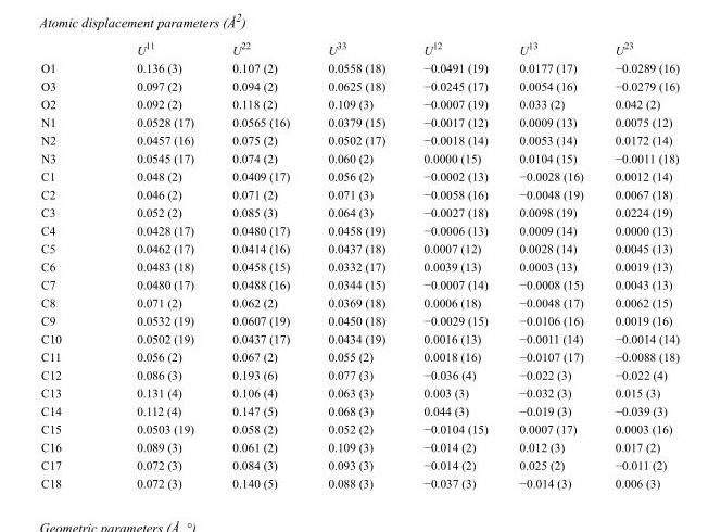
<table><thead><tr><td></td><td>U<sup>11</sup></td><td>U<sup>22</sup></td><td>U<sup>33</sup></td><td>U<sup>12</sup></td><td>U<sup>13</sup></td><td>U<sup>23</sup></td></tr></thead><tbody><tr><td>O1</td><td>0.136 (3)</td><td>0.107 (2)</td><td>0.0558 (18)</td><td>−0.0491 (19)</td><td>0.0177 (17)</td><td>−0.0289 (16)</td></tr><tr><td>O3</td><td>0.097 (2)</td><td>0.094 (2)</td><td>0.0625 (18)</td><td>−0.0245 (17)</td><td>0.0054 (16)</td><td>−0.0279 (16)</td></tr><tr><td>O2</td><td>0.092 (2)</td><td>0.118 (2)</td><td>0.109 (3)</td><td>−0.0007 (19)</td><td>0.033 (2)</td><td>0.042 (2)</td></tr><tr><td>N1</td><td>0.0528 (17)</td><td>0.0565 (16)</td><td>0.0379 (15)</td><td>−0.0017 (12)</td><td>0.0009 (13)</td><td>0.0075 (12)</td></tr><tr><td>N2</td><td>0.0457 (16)</td><td>0.075 (2)</td><td>0.0502 (17)</td><td>−0.0018 (14)</td><td>0.0053 (14)</td><td>0.0172 (14)</td></tr><tr><td>N3</td><td>0.0545 (17)</td><td>0.074 (2)</td><td>0.060 (2)</td><td>0.0000 (15)</td><td>0.0104 (15)</td><td>−0.0011 (18)</td></tr><tr><td>C1</td><td>0.048 (2)</td><td>0.0409 (17)</td><td>0.056 (2)</td><td>−0.0002 (13)</td><td>−0.0028 (16)</td><td>0.0012 (14)</td></tr><tr><td>C2</td><td>0.046 (2)</td><td>0.071 (2)</td><td>0.071 (3)</td><td>−0.0058 (16)</td><td>−0.0048 (19)</td><td>0.0067 (18)</td></tr><tr><td>C3</td><td>0.052 (2)</td><td>0.085 (3)</td><td>0.064 (3)</td><td>−0.0027 (18)</td><td>0.0098 (19)</td><td>0.0224 (19)</td></tr><tr><td>C4</td><td>0.0428 (17)</td><td>0.0480 (17)</td><td>0.0458 (19)</td><td>−0.0006 (13)</td><td>0.0009 (14)</td><td>0.0000 (13)</td></tr><tr><td>C5</td><td>0.0462 (17)</td><td>0.0414 (16)</td><td>0.0437 (18)</td><td>0.0007 (12)</td><td>0.0028 (14)</td><td>0.0045 (13)</td></tr><tr><td>C6</td><td>0.0483 (18)</td><td>0.0458 (15)</td><td>0.0332 (17)</td><td>0.0039 (13)</td><td>0.0003 (13)</td><td>0.0019 (13)</td></tr><tr><td>C7</td><td>0.0480 (17)</td><td>0.0488 (16)</td><td>0.0344 (15)</td><td>−0.0007 (14)</td><td>−0.0008 (15)</td><td>0.0043 (13)</td></tr><tr><td>C8</td><td>0.071 (2)</td><td>0.062 (2)</td><td>0.0369 (18)</td><td>0.0006 (18)</td><td>−0.0048 (17)</td><td>0.0062 (15)</td></tr><tr><td>C9</td><td>0.0532 (19)</td><td>0.0607 (19)</td><td>0.0450 (18)</td><td>−0.0029 (15)</td><td>−0.0106 (16)</td><td>0.0019 (16)</td></tr><tr><td>C10</td><td>0.0502 (19)</td><td>0.0437 (17)</td><td>0.0434 (19)</td><td>0.0016 (13)</td><td>−0.0011 (14)</td><td>−0.0014 (14)</td></tr><tr><td>C11</td><td>0.056 (2)</td><td>0.067 (2)</td><td>0.055 (2)</td><td>0.0018 (16)</td><td>−0.0107 (17)</td><td>−0.0088 (18)</td></tr><tr><td>C12</td><td>0.086 (3)</td><td>0.193 (6)</td><td>0.077 (3)</td><td>−0.036 (4)</td><td>−0.022 (3)</td><td>−0.022 (4)</td></tr><tr><td>C13</td><td>0.131 (4)</td><td>0.106 (4)</td><td>0.063 (3)</td><td>0.003 (3)</td><td>−0.032 (3)</td><td>0.015 (3)</td></tr><tr><td>C14</td><td>0.112 (4)</td><td>0.147 (5)</td><td>0.068 (3)</td><td>0.044 (3)</td><td>−0.019 (3)</td><td>−0.039 (3)</td></tr><tr><td>C15</td><td>0.0503 (19)</td><td>0.058 (2)</td><td>0.052 (2)</td><td>−0.0104 (15)</td><td>0.0007 (17)</td><td>0.0003 (16)</td></tr><tr><td>C16</td><td>0.089 (3)</td><td>0.061 (2)</td><td>0.109 (3)</td><td>−0.014 (2)</td><td>0.012 (3)</td><td>0.017 (2)</td></tr><tr><td>C17</td><td>0.072 (3)</td><td>0.084 (3)</td><td>0.093 (3)</td><td>−0.014 (2)</td><td>0.025 (2)</td><td>−0.011 (2)</td></tr><tr><td>C18</td><td>0.072 (3)</td><td>0.140 (5)</td><td>0.088 (3)</td><td>−0.037 (3)</td><td>−0.014 (3)</td><td>0.006 (3)</td></tr></tbody></table>